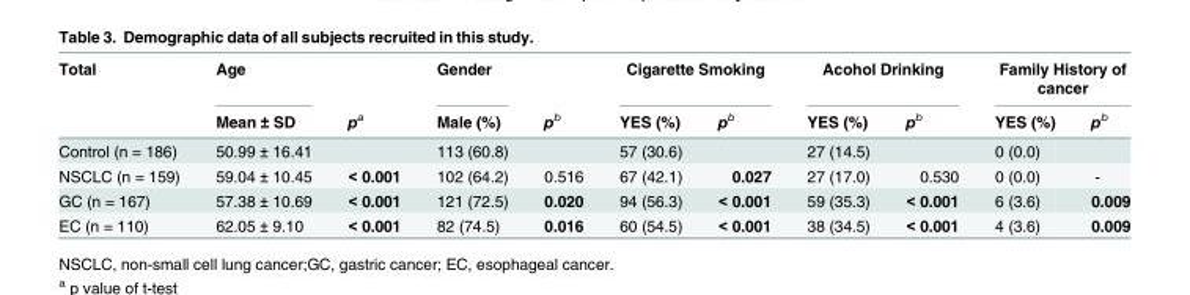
<table><thead><tr><td rowspan="2">Total</td><td rowspan="2">Age Mean ± SD</td><td rowspan="2">p<sup>a</sup></td><td rowspan="2">Gender Male (%)</td><td rowspan="2">p<sup>b</sup></td><td colspan="2">Cigarette Smoking</td><td colspan="2">Acohol Drinking</td><td colspan="2">Family History of cancer</td></tr><tr><td>YES (%)</td><td>p<sup>b</sup></td><td>YES (%)</td><td>p<sup>b</sup></td><td>YES (%)</td><td>p<sup>b</sup></td></tr></thead><tbody><tr><td>Control (n = 186)</td><td>50.99 ± 16.41</td><td></td><td>113 (60.8)</td><td></td><td>57 (30.6)</td><td></td><td>27 (14.5)</td><td></td><td>0 (0.0)</td><td></td></tr><tr><td>NSCLC (n = 159)</td><td>59.04 ± 10.45</td><td>&lt; 0.001</td><td>102 (64.2)</td><td>0.516</td><td>67 (42.1)</td><td>0.027</td><td>27 (17.0)</td><td>0.530</td><td>0 (0.0)</td><td>-</td></tr><tr><td>GC (n = 167)</td><td>57.38 ± 10.69</td><td>&lt; 0.001</td><td>121 (72.5)</td><td>0.020</td><td>94 (56.3)</td><td>&lt; 0.001</td><td>59 (35.3)</td><td>&lt; 0.001</td><td>6 (3.6)</td><td>0.009</td></tr><tr><td>EC (n = 110)</td><td>62.05 ± 9.10</td><td>&lt; 0.001</td><td>82 (74.5)</td><td>0.016</td><td>60 (54.5)</td><td>&lt; 0.001</td><td>38 (34.5)</td><td>&lt; 0.001</td><td>4 (3.6)</td><td>0.009</td></tr></tbody></table>